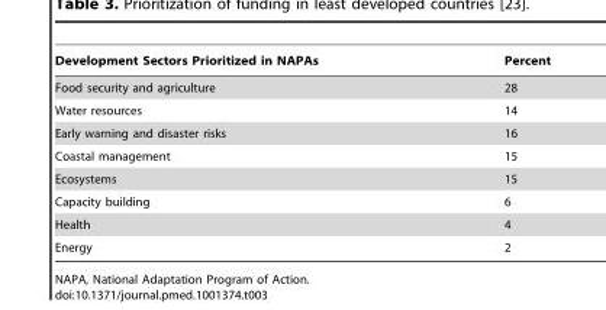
<table><thead><tr><td>Development Sectors Prioritized in NAPAs</td><td>Percent</td></tr></thead><tbody><tr><td>Food security and agriculture</td><td>28</td></tr><tr><td>Water resources</td><td>14</td></tr><tr><td>Early warning and disaster risks</td><td>16</td></tr><tr><td>Coastal management</td><td>15</td></tr><tr><td>Ecosystems</td><td>15</td></tr><tr><td>Capacity building</td><td>6</td></tr><tr><td>Health</td><td>4</td></tr><tr><td>Energy</td><td>2</td></tr></tbody></table>